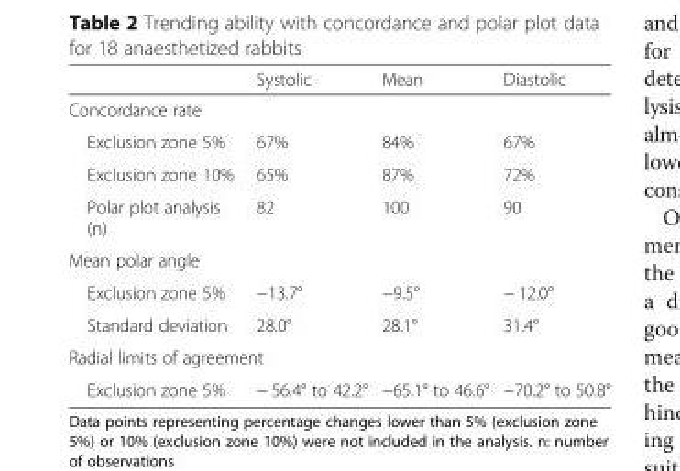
<table><thead><tr><td></td><td>Systolic</td><td>Mean</td><td>Diastolic</td></tr></thead><tbody><tr><td colspan="4">Concordance rate</td></tr><tr><td>Exclusion zone 5%</td><td>67%</td><td>84%</td><td>67%</td></tr><tr><td>Exclusion zone 10%</td><td>65%</td><td>87%</td><td>72%</td></tr><tr><td>Polar plot analysis (n)</td><td>82</td><td>100</td><td>90</td></tr><tr><td colspan="4">Mean polar angle</td></tr><tr><td>Exclusion zone 5%</td><td>−13.7°</td><td>−9.5°</td><td>− 12.0°</td></tr><tr><td>Standard deviation</td><td>28.0°</td><td>28.1°</td><td>31.4°</td></tr><tr><td colspan="4">Radial limits of agreement</td></tr><tr><td>Exclusion zone 5%</td><td>− 56.4° to 42.2°</td><td>−65.1° to 46.6°</td><td>−70.2° to 50.8°</td></tr></tbody></table>